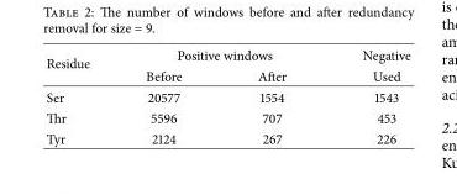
<table><thead><tr><td rowspan="2">Residue</td><td colspan="2">Positive windows</td><td rowspan="2">Negative Used</td></tr><tr><td>Before</td><td>After</td></tr></thead><tbody><tr><td>Ser</td><td>20577</td><td>1554</td><td>1543</td></tr><tr><td>Thr</td><td>5596</td><td>707</td><td>453</td></tr><tr><td>Tyr</td><td>2124</td><td>267</td><td>226</td></tr></tbody></table>